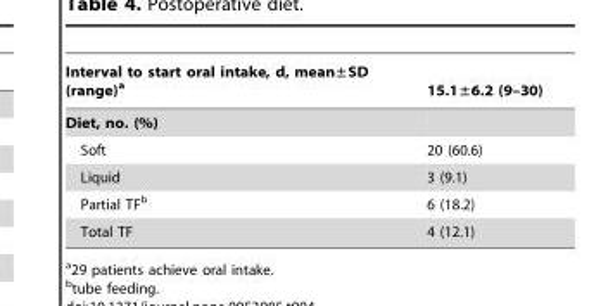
<table><thead><tr><td>Interval to start oral intake, d, mean±SD (range)<sup>a</sup></td><td>15.1±6.2 (9–30)</td></tr></thead><tbody><tr><td colspan="2">Diet, no. (%)</td></tr><tr><td>Soft</td><td>20 (60.6)</td></tr><tr><td>Liquid</td><td>3 (9.1)</td></tr><tr><td>Partial TF<sup>b</sup></td><td>6 (18.2)</td></tr><tr><td>Total TF</td><td>4 (12.1)</td></tr></tbody></table>